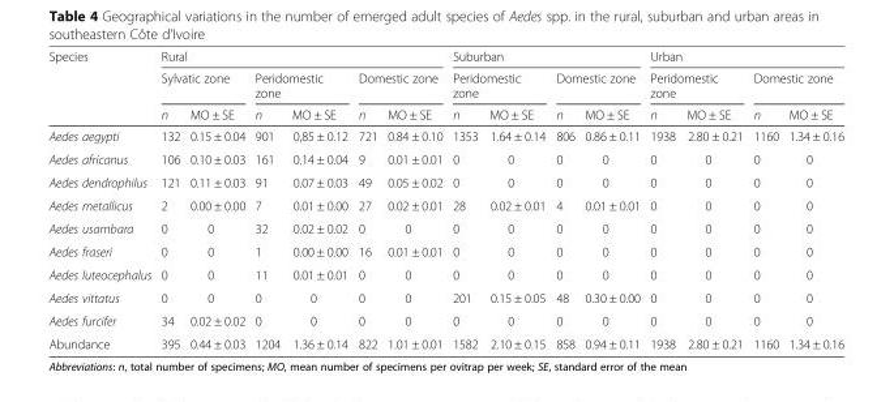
<table><thead><tr><td rowspan="3">Species</td><td colspan="6">Rural</td><td colspan="4">Suburban</td><td colspan="4">Urban</td></tr><tr><td colspan="2">Sylvatic zone</td><td colspan="2">Peridomestic zone</td><td colspan="2">Domestic zone</td><td colspan="2">Peridomestic zone</td><td colspan="2">Domestic zone</td><td colspan="2">Peridomestic zone</td><td colspan="2">Domestic zone</td></tr><tr><td>n</td><td>MO ± SE</td><td>n</td><td>MO ± SE</td><td>n</td><td>MO ± SE</td><td>n</td><td>MO ± SE</td><td>n</td><td>MO ± SE</td><td>n</td><td>MO ± SE</td><td>n</td><td>MO ± SE</td></tr></thead><tbody><tr><td>Aedes aegypti</td><td>132</td><td>0.15 ± 0.04</td><td>901</td><td>0,85 ± 0.12</td><td>721</td><td>0.84 ± 0.10</td><td>1353</td><td>1.64 ± 0.14</td><td>806</td><td>0.86 ± 0.11</td><td>1938</td><td>2.80 ± 0.21</td><td>1160</td><td>1.34 ± 0.16</td></tr><tr><td>Aedes africanus</td><td>106</td><td>0.10 ± 0.03</td><td>161</td><td>0.14 ± 0.04</td><td>9</td><td>0.01 ± 0.01</td><td>0</td><td>0</td><td>0</td><td>0</td><td>0</td><td>0</td><td>0</td><td>0</td></tr><tr><td>Aedes dendrophilus</td><td>121</td><td>0.11 ± 0.03</td><td>91</td><td>0.07 ± 0.03</td><td>49</td><td>0.05 ± 0.02</td><td>0</td><td>0</td><td>0</td><td>0</td><td>0</td><td>0</td><td>0</td><td>0</td></tr><tr><td>Aedes metallicus</td><td>2</td><td>0.00 ± 0.00</td><td>7</td><td>0.01 ± 0.00</td><td>27</td><td>0.02 ± 0.01</td><td>28</td><td>0.02 ± 0.01</td><td>4</td><td>0.01 ± 0.01</td><td>0</td><td>0</td><td>0</td><td>0</td></tr><tr><td>Aedes usambara</td><td>0</td><td>0</td><td>32</td><td>0.02 ± 0.02</td><td>0</td><td>0</td><td>0</td><td>0</td><td>0</td><td>0</td><td>0</td><td>0</td><td>0</td><td>0</td></tr><tr><td>Aedes fraseri</td><td>0</td><td>0</td><td>1</td><td>0.00 ± 0.00</td><td>16</td><td>0.01 ± 0.01</td><td>0</td><td>0</td><td>0</td><td>0</td><td>0</td><td>0</td><td>0</td><td>0</td></tr><tr><td>Aedes luteocephalus</td><td>0</td><td>0</td><td>11</td><td>0.01 ± 0.01</td><td>0</td><td>0</td><td>0</td><td>0</td><td>0</td><td>0</td><td>0</td><td>0</td><td>0</td><td>0</td></tr><tr><td>Aedes vittatus</td><td>0</td><td>0</td><td>0</td><td>0</td><td>0</td><td>0</td><td>201</td><td>0.15 ± 0.05</td><td>48</td><td>0.30 ± 0.00</td><td>0</td><td>0</td><td>0</td><td>0</td></tr><tr><td>Aedes furcifer</td><td>34</td><td>0.02 ± 0.02</td><td>0</td><td>0</td><td>0</td><td>0</td><td>0</td><td>0</td><td>0</td><td>0</td><td>0</td><td>0</td><td>0</td><td>0</td></tr><tr><td>Abundance</td><td>395</td><td>0.44 ± 0.03</td><td>1204</td><td>1.36 ± 0.14</td><td>822</td><td>1.01 ± 0.01</td><td>1582</td><td>2.10 ± 0.15</td><td>858</td><td>0.94 ± 0.11</td><td>1938</td><td>2.80 ± 0.21</td><td>1160</td><td>1.34 ± 0.16</td></tr></tbody></table>